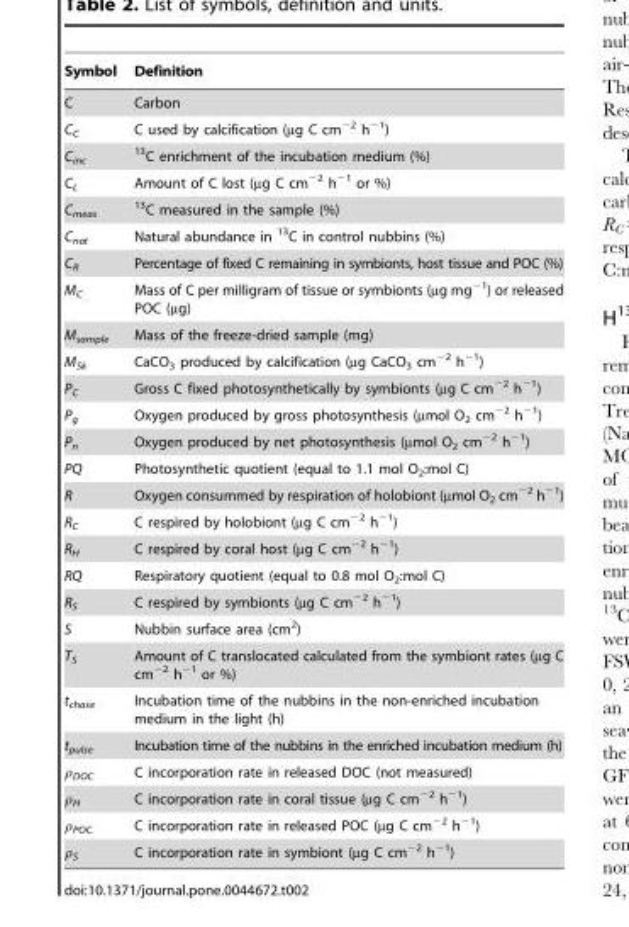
<table><thead><tr><td>Symbol</td><td>Definition</td></tr></thead><tbody><tr><td>C</td><td>Carbon</td></tr><tr><td>C<sub>C</sub></td><td>C used by calcification (µg C cm<sup>−2</sup> h<sup>−1</sup>)</td></tr><tr><td>C<sub>inc</sub></td><td><sup>13</sup>C enrichment of the incubation medium (%)</td></tr><tr><td>C<sub>L</sub></td><td>Amount of C lost (µg C cm<sup>−2</sup> h<sup>−1</sup> or %)</td></tr><tr><td>C<sub>meas</sub></td><td><sup>13</sup>C measured in the sample (%)</td></tr><tr><td>C<sub>nat</sub></td><td>Natural abundance in <sup>13</sup>C in control nubbins (%)</td></tr><tr><td>C<sub>R</sub></td><td>Percentage of fixed C remaining in symbionts, host tissue and POC (%)</td></tr><tr><td>M<sub>C</sub></td><td>Mass of C per milligram of tissue or symbionts (µg mg<sup>−1</sup>) or released POC (µg)</td></tr><tr><td>M<sub>sample</sub></td><td>Mass of the freeze-dried sample (mg)</td></tr><tr><td>M<sub>Sk</sub></td><td>CaCO<sub>3</sub> produced by calcification (µg CaCO<sub>3</sub> cm<sup>−2</sup> h<sup>−1</sup>)</td></tr><tr><td>P<sub>C</sub></td><td>Gross C fixed photosynthetically by symbionts (µg C cm<sup>−2</sup> h<sup>−1</sup>)</td></tr><tr><td>P<sub>g</sub></td><td>Oxygen produced by gross photosynthesis (µmol O<sub>2</sub> cm<sup>−2</sup> h<sup>−1</sup>)</td></tr><tr><td>P<sub>n</sub></td><td>Oxygen produced by net photosynthesis (µmol O<sub>2</sub> cm<sup>−2</sup> h<sup>−1</sup>)</td></tr><tr><td>PQ</td><td>Photosynthetic quotient (equal to 1.1 mol O<sub>2</sub>:mol C)</td></tr><tr><td>R</td><td>Oxygen consummed by respiration of holobiont (µmol O<sub>2</sub> cm<sup>−2</sup> h<sup>−1</sup>)</td></tr><tr><td>R<sub>C</sub></td><td>C respired by holobiont (µg C cm<sup>−2</sup> h<sup>−1</sup>)</td></tr><tr><td>R<sub>H</sub></td><td>C respired by coral host (µg C cm<sup>−2</sup> h<sup>−1</sup>)</td></tr><tr><td>RQ</td><td>Respiratory quotient (equal to 0.8 mol O<sub>2</sub>:mol C)</td></tr><tr><td>R<sub>S</sub></td><td>C respired by symbionts (µg C cm<sup>−2</sup> h<sup>−1</sup>)</td></tr><tr><td>S</td><td>Nubbin surface area (cm<sup>2</sup>)</td></tr><tr><td>T<sub>S</sub></td><td>Amount of C translocated calculated from the symbiont rates (µg C cm<sup>−2</sup> h<sup>−1</sup> or %)</td></tr><tr><td>t<sub>chase</sub></td><td>Incubation time of the nubbins in the non-enriched incubation medium in the light (h)</td></tr><tr><td>t<sub>pulse</sub></td><td>Incubation time of the nubbins in the enriched incubation medium (h)</td></tr><tr><td>ρ<sub>DOC</sub></td><td>C incorporation rate in released DOC (not measured)</td></tr><tr><td>ρ<sub>H</sub></td><td>C incorporation rate in coral tissue (µg C cm<sup>−2</sup> h<sup>−1</sup>)</td></tr><tr><td>ρ<sub>POC</sub></td><td>C incorporation rate in released POC (µg C cm<sup>−2</sup> h<sup>−1</sup>)</td></tr><tr><td>ρ<sub>S</sub></td><td>C incorporation rate in symbiont (µg C cm<sup>−2</sup> h<sup>−1</sup>)</td></tr></tbody></table>